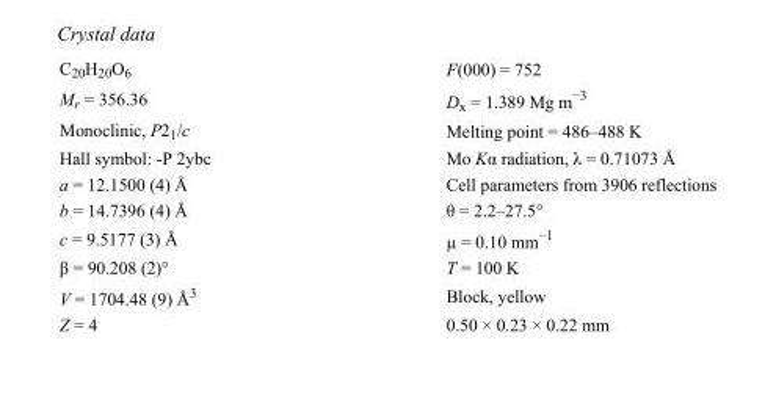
<table><tbody><tr><td>C<sub>20</sub>H<sub>20</sub>O<sub>6</sub></td><td>F(000) = 752</td></tr><tr><td>M<sub>r</sub> = 356.36</td><td>D<sub>x</sub> = 1.389 Mg m<sup>−3</sup></td></tr><tr><td>Monoclinic, P2<sub>1</sub>/c</td><td>Melting point = 486–488 K</td></tr><tr><td>Hall symbol: -P 2ybc</td><td>Mo Kα radiation, λ = 0.71073 Å</td></tr><tr><td>a = 12.1500 (4) Å</td><td>Cell parameters from 3906 reflections</td></tr><tr><td>b = 14.7396 (4) Å</td><td>θ = 2.2–27.5°</td></tr><tr><td>c = 9.5177 (3) Å</td><td>µ = 0.10 mm<sup>−1</sup></td></tr><tr><td>β = 90.208 (2)°</td><td>T = 100 K</td></tr><tr><td>V = 1704.48 (9) Å<sup>3</sup></td><td>Block, yellow</td></tr><tr><td>Z = 4</td><td>0.50 × 0.23 × 0.22 mm</td></tr></tbody></table>